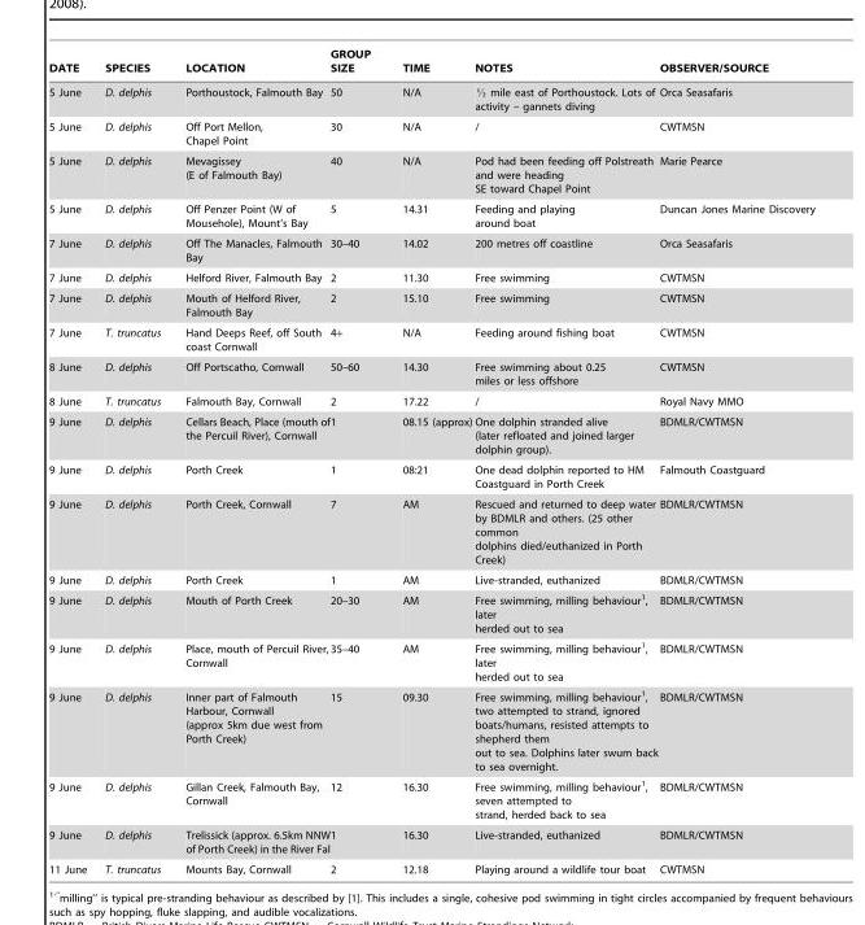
<table><thead><tr><td>DATE</td><td>SPECIES</td><td>LOCATION</td><td>GROUP SIZE</td><td>TIME</td><td>NOTES</td><td>OBSERVER/SOURCE</td></tr></thead><tbody><tr><td>5 June</td><td>D. delphis</td><td>Porthoustock, Falmouth Bay</td><td>50</td><td>N/A</td><td>K mile east of Porthoustock. Lots of activity – gannets diving</td><td>Orca Seasafaris</td></tr><tr><td>5 June</td><td>D. delphis</td><td>Off Port Mellon, Chapel Point</td><td>30</td><td>N/A</td><td>/</td><td>CWTMSN</td></tr><tr><td>5 June</td><td>D. delphis</td><td>Mevagissey (E of Falmouth Bay)</td><td>40</td><td>N/A</td><td>Pod had been feeding off Polstreath and were heading SE toward Chapel Point</td><td>Marie Pearce</td></tr><tr><td>5 June</td><td>D. delphis</td><td>Off Penzer Point (W of Mousehole), Mount’s Bay</td><td>5</td><td>14.31</td><td>Feeding and playing around boat</td><td>Duncan Jones Marine Discovery</td></tr><tr><td>7 June</td><td>D. delphis</td><td>Off The Manacles, Falmouth Bay</td><td>30–40</td><td>14.02</td><td>200 metres off coastline</td><td>Orca Seasafaris</td></tr><tr><td>7 June</td><td>D. delphis</td><td>Helford River, Falmouth Bay</td><td>2</td><td>11.30</td><td>Free swimming</td><td>CWTMSN</td></tr><tr><td>7 June</td><td>D. delphis</td><td>Mouth of Helford River, Falmouth Bay</td><td>2</td><td>15.10</td><td>Free swimming</td><td>CWTMSN</td></tr><tr><td>7 June</td><td>T. truncatus</td><td>Hand Deeps Reef, off South coast Cornwall</td><td>4+</td><td>N/A</td><td>Feeding around fishing boat</td><td>CWTMSN</td></tr><tr><td>8 June</td><td>D. delphis</td><td>Off Portscatho, Cornwall</td><td>50–60</td><td>14.30</td><td>Free swimming about 0.25 miles or less offshore</td><td>CWTMSN</td></tr><tr><td>8 June</td><td>T. truncatus</td><td>Falmouth Bay, Cornwall</td><td>2</td><td>17.22</td><td>/</td><td>Royal Navy MMO</td></tr><tr><td>9 June</td><td>D. delphis</td><td>Cellars Beach, Place (mouth of the Percuil River), Cornwall</td><td>1</td><td>08.15 (approx)</td><td>One dolphin stranded alive (later refloated and joined larger dolphin group).</td><td>BDMLR/CWTMSN</td></tr><tr><td>9 June</td><td>D. delphis</td><td>Porth Creek</td><td>1</td><td>08:21</td><td>One dead dolphin reported to HM Coastguard in Porth Creek</td><td>Falmouth Coastguard</td></tr><tr><td>9 June</td><td>D. delphis</td><td>Porth Creek, Cornwall</td><td>7</td><td>AM</td><td>Rescued and returned to deep water by BDMLR and others. (25 other common dolphins died/euthanized in Porth Creek)</td><td>BDMLR/CWTMSN</td></tr><tr><td>9 June</td><td>D. delphis</td><td>Porth Creek</td><td>1</td><td>AM</td><td>Live-stranded, euthanized</td><td>BDMLR/CWTMSN</td></tr><tr><td>9 June</td><td>D. delphis</td><td>Mouth of Porth Creek</td><td>20–30</td><td>AM</td><td>Free swimming, milling behaviour<sup>1</sup>, later herded out to sea</td><td>BDMLR/CWTMSN</td></tr><tr><td>9 June</td><td>D. delphis</td><td>Place, mouth of Percuil River, Cornwall</td><td>35–40</td><td>AM</td><td>Free swimming, milling behaviour<sup>1</sup>, later herded out to sea</td><td>BDMLR/CWTMSN</td></tr><tr><td>9 June</td><td>D. delphis</td><td>Inner part of Falmouth Harbour, Cornwall (approx 5km due west from Porth Creek)</td><td>15</td><td>09.30</td><td>Free swimming, milling behaviour<sup>1</sup>, two attempted to strand, ignored boats/humans, resisted attempts to shepherd them out to sea. Dolphins later swum back to sea overnight.</td><td>BDMLR/CWTMSN</td></tr><tr><td>9 June</td><td>D. delphis</td><td>Gillan Creek, Falmouth Bay, Cornwall</td><td>12</td><td>16.30</td><td>Free swimming, milling behaviour<sup>1</sup>, seven attempted to strand, herded back to sea</td><td>BDMLR/CWTMSN</td></tr><tr><td>9 June</td><td>D. delphis</td><td>Trelissick (approx. 6.5km NNW of Porth Creek) in the River Fal</td><td>1</td><td>16.30</td><td>Live-stranded, euthanized</td><td>BDMLR/CWTMSN</td></tr><tr><td>11 June</td><td>T. truncatus</td><td>Mounts Bay, Cornwall</td><td>2</td><td>12.18</td><td>Playing around a wildlife tour boat</td><td>CWTMSN</td></tr></tbody></table>